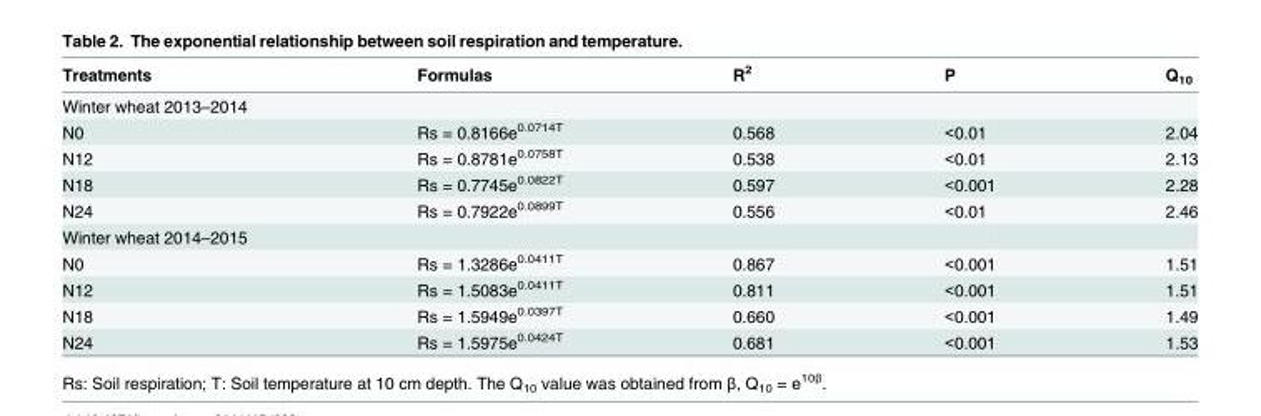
<table><thead><tr><td>Treatments</td><td>Formulas</td><td>R<sup>2</sup></td><td>P</td><td>Q<sub>10</sub></td></tr></thead><tbody><tr><td colspan="5">Winter wheat 2013–2014</td></tr><tr><td>N0</td><td>Rs = 0.8166e<sup>0.0714T</sup></td><td>0.568</td><td>&lt;0.01</td><td>2.04</td></tr><tr><td>N12</td><td>Rs = 0.8781e<sup>0.0758T</sup></td><td>0.538</td><td>&lt;0.01</td><td>2.13</td></tr><tr><td>N18</td><td>Rs = 0.7745e<sup>0.0822T</sup></td><td>0.597</td><td>&lt;0.001</td><td>2.28</td></tr><tr><td>N24</td><td>Rs = 0.7922e<sup>0.0899T</sup></td><td>0.556</td><td>&lt;0.01</td><td>2.46</td></tr><tr><td colspan="5">Winter wheat 2014–2015</td></tr><tr><td>N0</td><td>Rs = 1.3286e<sup>0.0411T</sup></td><td>0.867</td><td>&lt;0.001</td><td>1.51</td></tr><tr><td>N12</td><td>Rs = 1.5083e<sup>0.0411T</sup></td><td>0.811</td><td>&lt;0.001</td><td>1.51</td></tr><tr><td>N18</td><td>Rs = 1.5949e<sup>0.0397T</sup></td><td>0.660</td><td>&lt;0.001</td><td>1.49</td></tr><tr><td>N24</td><td>Rs = 1.5975e<sup>0.0424T</sup></td><td>0.681</td><td>&lt;0.001</td><td>1.53</td></tr></tbody></table>